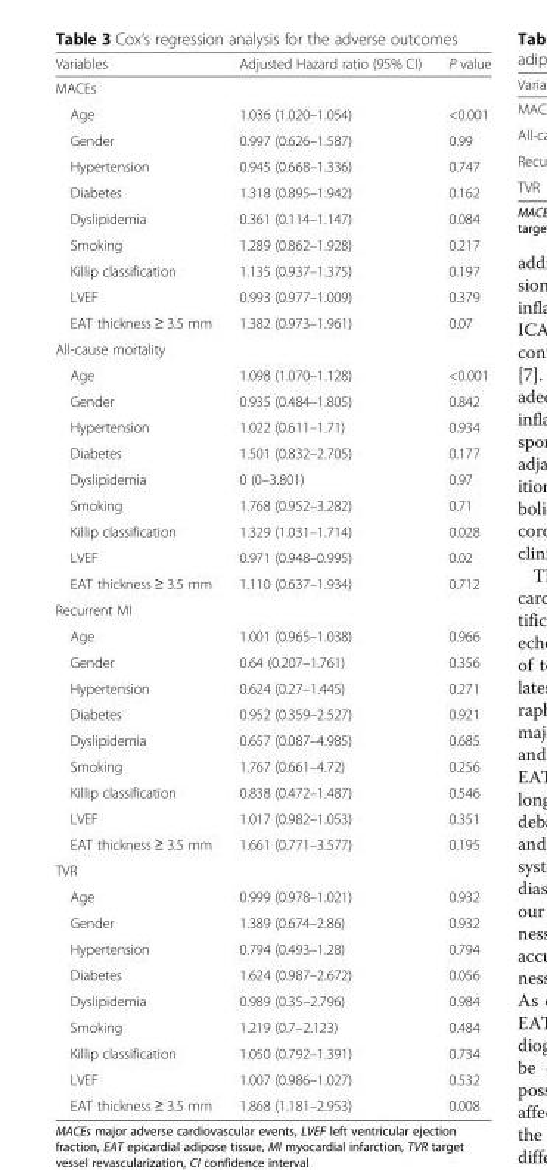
<table><thead><tr><td>Variables</td><td>Adjusted Hazard ratio (95% CI)</td><td>P value</td></tr></thead><tbody><tr><td colspan="3">MACEs</td></tr><tr><td>Age</td><td>1.036 (1.020–1.054)</td><td>&lt;0.001</td></tr><tr><td>Gender</td><td>0.997 (0.626–1.587)</td><td>0.99</td></tr><tr><td>Hypertension</td><td>0.945 (0.668–1.336)</td><td>0.747</td></tr><tr><td>Diabetes</td><td>1.318 (0.895–1.942)</td><td>0.162</td></tr><tr><td>Dyslipidemia</td><td>0.361 (0.114–1.147)</td><td>0.084</td></tr><tr><td>Smoking</td><td>1.289 (0.862–1.928)</td><td>0.217</td></tr><tr><td>Killip classification</td><td>1.135 (0.937–1.375)</td><td>0.197</td></tr><tr><td>LVEF</td><td>0.993 (0.977–1.009)</td><td>0.379</td></tr><tr><td>EAT thickness ≥ 3.5 mm</td><td>1.382 (0.973–1.961)</td><td>0.07</td></tr><tr><td colspan="3">All-cause mortality</td></tr><tr><td>Age</td><td>1.098 (1.070–1.128)</td><td>&lt;0.001</td></tr><tr><td>Gender</td><td>0.935 (0.484–1.805)</td><td>0.842</td></tr><tr><td>Hypertension</td><td>1.022 (0.611–1.71)</td><td>0.934</td></tr><tr><td>Diabetes</td><td>1.501 (0.832–2.705)</td><td>0.177</td></tr><tr><td>Dyslipidemia</td><td>0 (0–3.801)</td><td>0.97</td></tr><tr><td>Smoking</td><td>1.768 (0.952–3.282)</td><td>0.71</td></tr><tr><td>Killip classification</td><td>1.329 (1.031–1.714)</td><td>0.028</td></tr><tr><td>LVEF</td><td>0.971 (0.948–0.995)</td><td>0.02</td></tr><tr><td>EAT thickness ≥ 3.5 mm</td><td>1.110 (0.637–1.934)</td><td>0.712</td></tr><tr><td colspan="3">Recurrent MI</td></tr><tr><td>Age</td><td>1.001 (0.965–1.038)</td><td>0.966</td></tr><tr><td>Gender</td><td>0.64 (0.207–1.761)</td><td>0.356</td></tr><tr><td>Hypertension</td><td>0.624 (0.27–1.445)</td><td>0.271</td></tr><tr><td>Diabetes</td><td>0.952 (0.359–2.527)</td><td>0.921</td></tr><tr><td>Dyslipidemia</td><td>0.657 (0.087–4.985)</td><td>0.685</td></tr><tr><td>Smoking</td><td>1.767 (0.661–4.72)</td><td>0.256</td></tr><tr><td>Killip classification</td><td>0.838 (0.472–1.487)</td><td>0.546</td></tr><tr><td>LVEF</td><td>1.017 (0.982–1.053)</td><td>0.351</td></tr><tr><td>EAT thickness ≥ 3.5 mm</td><td>1.661 (0.771–3.577)</td><td>0.195</td></tr><tr><td colspan="3">TVR</td></tr><tr><td>Age</td><td>0.999 (0.978–1.021)</td><td>0.932</td></tr><tr><td>Gender</td><td>1.389 (0.674–2.86)</td><td>0.932</td></tr><tr><td>Hypertension</td><td>0.794 (0.493–1.28)</td><td>0.794</td></tr><tr><td>Diabetes</td><td>1.624 (0.987–2.672)</td><td>0.056</td></tr><tr><td>Dyslipidemia</td><td>0.989 (0.35–2.796)</td><td>0.984</td></tr><tr><td>Smoking</td><td>1.219 (0.7–2.123)</td><td>0.484</td></tr><tr><td>Killip classification</td><td>1.050 (0.792–1.391)</td><td>0.734</td></tr><tr><td>LVEF</td><td>1.007 (0.986–1.027)</td><td>0.532</td></tr><tr><td>EAT thickness ≥ 3.5 mm</td><td>1.868 (1.181–2.953)</td><td>0.008</td></tr></tbody></table>